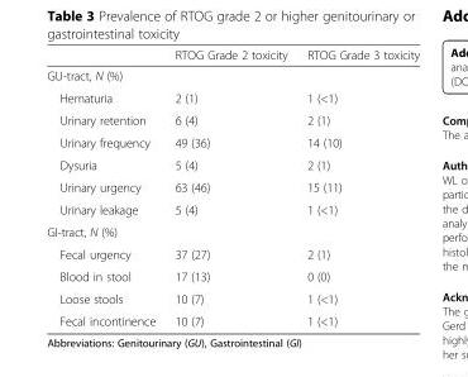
<table><thead><tr><td></td><td>RTOG Grade 2 toxicity</td><td>RTOG Grade 3 toxicity</td></tr></thead><tbody><tr><td colspan="3">GU-tract, N (%)</td></tr><tr><td>Hematuria</td><td>2 (1)</td><td>1 (&lt;1)</td></tr><tr><td>Urinary retention</td><td>6 (4)</td><td>2 (1)</td></tr><tr><td>Urinary frequency</td><td>49 (36)</td><td>14 (10)</td></tr><tr><td>Dysuria</td><td>5 (4)</td><td>2 (1)</td></tr><tr><td>Urinary urgency</td><td>63 (46)</td><td>15 (11)</td></tr><tr><td>Urinary leakage</td><td>5 (4)</td><td>1 (&lt;1)</td></tr><tr><td colspan="3">GI-tract, N (%)</td></tr><tr><td>Fecal urgency</td><td>37 (27)</td><td>2 (1)</td></tr><tr><td>Blood in stool</td><td>17 (13)</td><td>0 (0)</td></tr><tr><td>Loose stools</td><td>10 (7)</td><td>1 (&lt;1)</td></tr><tr><td>Fecal incontinence</td><td>10 (7)</td><td>1 (&lt;1)</td></tr></tbody></table>